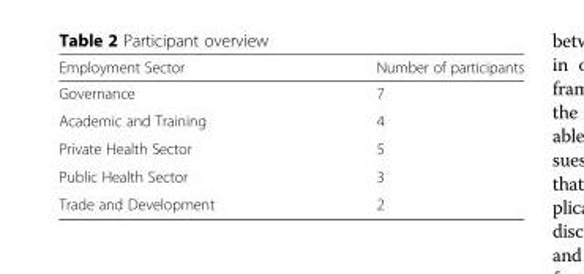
<table><thead><tr><td>Employment Sector</td><td>Number of participants</td></tr></thead><tbody><tr><td>Governance</td><td>7</td></tr><tr><td>Academic and Training</td><td>4</td></tr><tr><td>Private Health Sector</td><td>5</td></tr><tr><td>Public Health Sector</td><td>3</td></tr><tr><td>Trade and Development</td><td>2</td></tr></tbody></table>